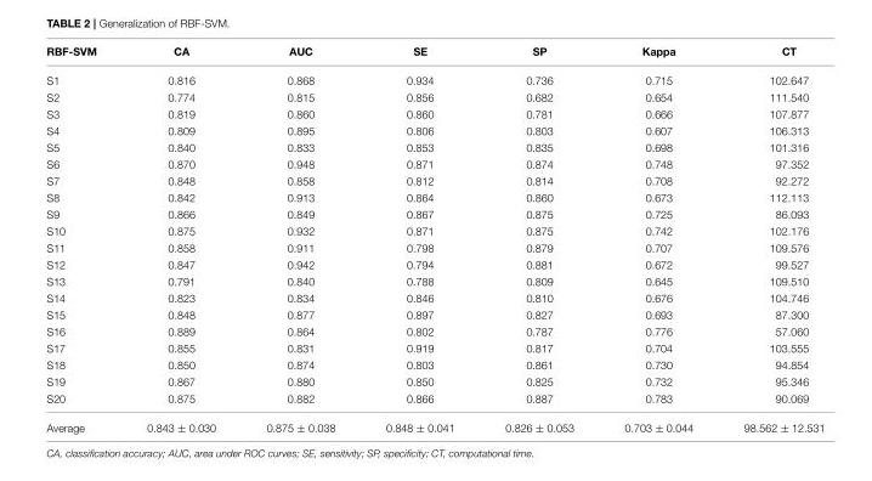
<table><thead><tr><td>RBF-SVM</td><td>CA</td><td>AUC</td><td>SE</td><td>SP</td><td>Kappa</td><td>CT</td></tr></thead><tbody><tr><td>S1</td><td>0.816</td><td>0.868</td><td>0.934</td><td>0.736</td><td>0.715</td><td>102.647</td></tr><tr><td>S2</td><td>0.774</td><td>0.815</td><td>0.856</td><td>0.682</td><td>0.654</td><td>111.540</td></tr><tr><td>S3</td><td>0.819</td><td>0.860</td><td>0.860</td><td>0.781</td><td>0.666</td><td>107.877</td></tr><tr><td>S4</td><td>0.809</td><td>0.895</td><td>0.806</td><td>0.803</td><td>0.607</td><td>106.313</td></tr><tr><td>S5</td><td>0.840</td><td>0.833</td><td>0.853</td><td>0.835</td><td>0.698</td><td>101.316</td></tr><tr><td>S6</td><td>0.870</td><td>0.948</td><td>0.871</td><td>0.874</td><td>0.748</td><td>97.352</td></tr><tr><td>S7</td><td>0.848</td><td>0.858</td><td>0.812</td><td>0.814</td><td>0.708</td><td>92.272</td></tr><tr><td>S8</td><td>0.842</td><td>0.913</td><td>0.864</td><td>0.860</td><td>0.673</td><td>112.113</td></tr><tr><td>S9</td><td>0.866</td><td>0.849</td><td>0.867</td><td>0.875</td><td>0.725</td><td>86.093</td></tr><tr><td>S10</td><td>0.875</td><td>0.932</td><td>0.871</td><td>0.875</td><td>0.742</td><td>102.176</td></tr><tr><td>S11</td><td>0.858</td><td>0.911</td><td>0.798</td><td>0.879</td><td>0.707</td><td>109.576</td></tr><tr><td>S12</td><td>0.847</td><td>0.942</td><td>0.794</td><td>0.881</td><td>0.672</td><td>99.527</td></tr><tr><td>S13</td><td>0.791</td><td>0.840</td><td>0.788</td><td>0.809</td><td>0.645</td><td>109.510</td></tr><tr><td>S14</td><td>0.823</td><td>0.834</td><td>0.846</td><td>0.810</td><td>0.676</td><td>104.746</td></tr><tr><td>S15</td><td>0.848</td><td>0.877</td><td>0.897</td><td>0.827</td><td>0.693</td><td>87.300</td></tr><tr><td>S16</td><td>0.889</td><td>0.864</td><td>0.802</td><td>0.787</td><td>0.776</td><td>57.060</td></tr><tr><td>S17</td><td>0.855</td><td>0.831</td><td>0.919</td><td>0.817</td><td>0.704</td><td>103.555</td></tr><tr><td>S18</td><td>0.850</td><td>0.874</td><td>0.803</td><td>0.861</td><td>0.730</td><td>94.854</td></tr><tr><td>S19</td><td>0.867</td><td>0.880</td><td>0.850</td><td>0.825</td><td>0.732</td><td>95.346</td></tr><tr><td>S20</td><td>0.875</td><td>0.882</td><td>0.866</td><td>0.887</td><td>0.783</td><td>90.069</td></tr><tr><td>Average</td><td>0.843 ± 0.030</td><td>0.875 ± 0.038</td><td>0.848 ± 0.041</td><td>0.826 ± 0.053</td><td>0.703 ± 0.044</td><td>98.562 ± 12.531</td></tr></tbody></table>